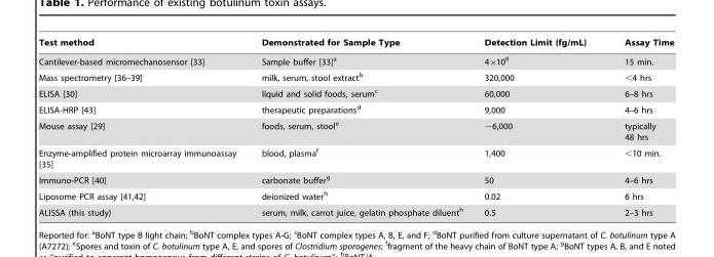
<table><thead><tr><td>Test method</td><td>Demonstrated for Sample Type</td><td>Detection Limit (fg/mL)</td><td>Assay Time</td></tr></thead><tbody><tr><td>Cantilever-based micromechanosensor [33]</td><td>Sample buffer [33]<sup>a</sup></td><td>4×10<sup>8</sup></td><td>15 min.</td></tr><tr><td>Mass spectrometry [36–39]</td><td>milk, serum, stool extract<sup>b</sup></td><td>320,000</td><td>&lt;4 hrs</td></tr><tr><td>ELISA [30]</td><td>liquid and solid foods, serum<sup>c</sup></td><td>60,000</td><td>6–8 hrs</td></tr><tr><td>ELISA-HRP [43]</td><td>therapeutic preparations<sup>d</sup></td><td>9,000</td><td>4–6 hrs</td></tr><tr><td>Mouse assay [29]</td><td>foods, serum, stool<sup>e</sup></td><td>∼6,000</td><td>typically 48 hrs</td></tr><tr><td>Enzyme-amplified protein microarray immunoassay [35]</td><td>blood, plasma<sup>f</sup></td><td>1,400</td><td>&lt;10 min.</td></tr><tr><td>Immuno-PCR [40]</td><td>carbonate buffer<sup>g</sup></td><td>50</td><td>4–6 hrs</td></tr><tr><td>Liposome PCR assay [41,42]</td><td>deionized water<sup>h</sup></td><td>0.02</td><td>6 hrs</td></tr><tr><td>ALISSA (this study)</td><td>serum, milk, carrot juice, gelatin phosphate diluent<sup>h</sup></td><td>0.5</td><td>2–3 hrs</td></tr></tbody></table>